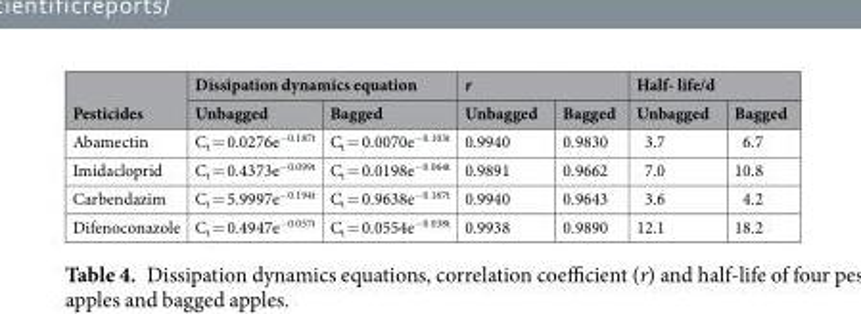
<table><thead><tr><td rowspan="2">Pesticides</td><td colspan="2">Dissipation dynamics equation</td><td colspan="2">r</td><td colspan="2">Half- life/d</td></tr><tr><td>Unbagged</td><td>Bagged</td><td>Unbagged</td><td>Bagged</td><td>Unbagged</td><td>Bagged</td></tr></thead><tbody><tr><td>Abamectin</td><td>C<sub>t</sub> = 0.0276e<sup>−0.187t</sup></td><td>C<sub>t</sub> = 0.0070e<sup>−0.103t</sup></td><td>0.9940</td><td>0.9830</td><td>3.7</td><td>6.7</td></tr><tr><td>Imidacloprid</td><td>C<sub>t</sub> = 0.4373e<sup>−0.099t</sup></td><td>C<sub>t</sub> = 0.0198e<sup>−0.064t</sup></td><td>0.9891</td><td>0.9662</td><td>7.0</td><td>10.8</td></tr><tr><td>Carbendazim</td><td>C<sub>t</sub> = 5.9997e<sup>−0.194t</sup></td><td>C<sub>t</sub> = 0.9638e<sup>−0.167t</sup></td><td>0.9940</td><td>0.9643</td><td>3.6</td><td>4.2</td></tr><tr><td>Difenoconazole</td><td>C<sub>t</sub> = 0.4947e<sup>−0.057t</sup></td><td>C<sub>t</sub> = 0.0554e<sup>−0.038t</sup></td><td>0.9938</td><td>0.9890</td><td>12.1</td><td>18.2</td></tr></tbody></table>